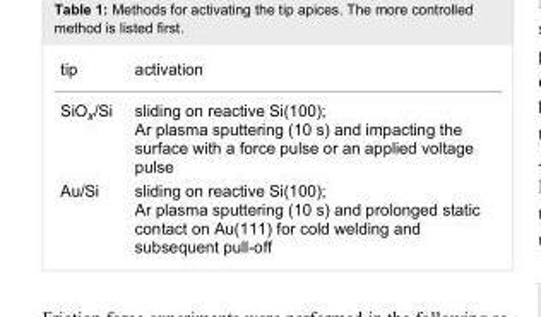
<table><tbody><tr><td>tip</td><td>activation</td></tr><tr><td>SiO<sub>x</sub>/Si</td><td>sliding on reactive Si(100); Ar plasma sputtering (10 s) and impacting the surface with a force pulse or an applied voltage pulse</td></tr><tr><td>Au/Si</td><td>sliding on reactive Si(100); Ar plasma sputtering (10 s) and prolonged static contact on Au(111) for cold welding and subsequent pull-off</td></tr></tbody></table>